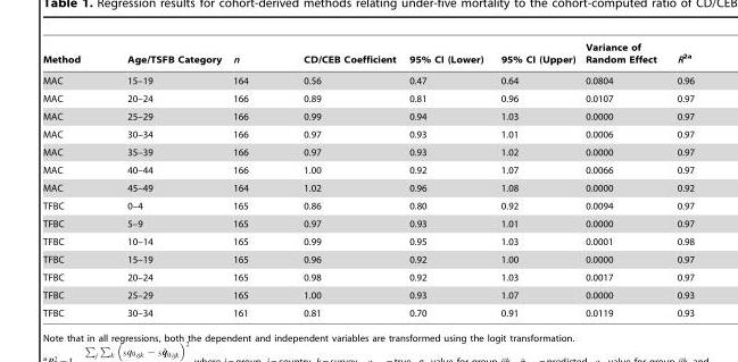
<table><thead><tr><td>Method</td><td>Age/TSFB Category</td><td>n</td><td>CD/CEB Coefficient</td><td>95% CI (Lower)</td><td>95% CI (Upper)</td><td>Variance of Random Effect</td><td>R<sup>2a</sup></td></tr></thead><tbody><tr><td>MAC</td><td>15–19</td><td>164</td><td>0.56</td><td>0.47</td><td>0.64</td><td>0.0804</td><td>0.96</td></tr><tr><td>MAC</td><td>20–24</td><td>166</td><td>0.89</td><td>0.81</td><td>0.96</td><td>0.0107</td><td>0.97</td></tr><tr><td>MAC</td><td>25–29</td><td>166</td><td>0.99</td><td>0.94</td><td>1.03</td><td>0.0000</td><td>0.97</td></tr><tr><td>MAC</td><td>30–34</td><td>166</td><td>0.97</td><td>0.93</td><td>1.01</td><td>0.0006</td><td>0.97</td></tr><tr><td>MAC</td><td>35–39</td><td>166</td><td>0.97</td><td>0.93</td><td>1.02</td><td>0.0000</td><td>0.97</td></tr><tr><td>MAC</td><td>40–44</td><td>166</td><td>1.00</td><td>0.92</td><td>1.07</td><td>0.0066</td><td>0.97</td></tr><tr><td>MAC</td><td>45–49</td><td>164</td><td>1.02</td><td>0.96</td><td>1.08</td><td>0.0000</td><td>0.92</td></tr><tr><td>TFBC</td><td>0–4</td><td>165</td><td>0.86</td><td>0.80</td><td>0.92</td><td>0.0094</td><td>0.97</td></tr><tr><td>TFBC</td><td>5–9</td><td>165</td><td>0.97</td><td>0.93</td><td>1.01</td><td>0.0000</td><td>0.97</td></tr><tr><td>TFBC</td><td>10–14</td><td>165</td><td>0.99</td><td>0.95</td><td>1.03</td><td>0.0001</td><td>0.98</td></tr><tr><td>TFBC</td><td>15–19</td><td>165</td><td>0.96</td><td>0.92</td><td>1.00</td><td>0.0000</td><td>0.97</td></tr><tr><td>TFBC</td><td>20–24</td><td>165</td><td>0.98</td><td>0.92</td><td>1.03</td><td>0.0017</td><td>0.97</td></tr><tr><td>TFBC</td><td>25–29</td><td>165</td><td>1.00</td><td>0.93</td><td>1.07</td><td>0.0000</td><td>0.93</td></tr><tr><td>TFBC</td><td>30–34</td><td>161</td><td>0.81</td><td>0.70</td><td>0.91</td><td>0.0119</td><td>0.93</td></tr></tbody></table>